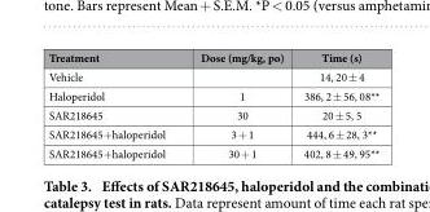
<table><thead><tr><td>Treatment</td><td>Dose (mg/kg, po)</td><td>Time (s)</td></tr></thead><tbody><tr><td>Vehicle</td><td></td><td>14, 20 ± 4</td></tr><tr><td>Haloperidol</td><td>1</td><td>386, 2 ± 56, 08**</td></tr><tr><td>SAR218645</td><td>30</td><td>20 ± 5, 5</td></tr><tr><td>SAR218645+ haloperidol</td><td>3 + 1</td><td>444, 6 ± 28, 3**</td></tr><tr><td>SAR218645+ haloperidol</td><td>30 + 1</td><td>402, 8 ± 49, 95**</td></tr></tbody></table>